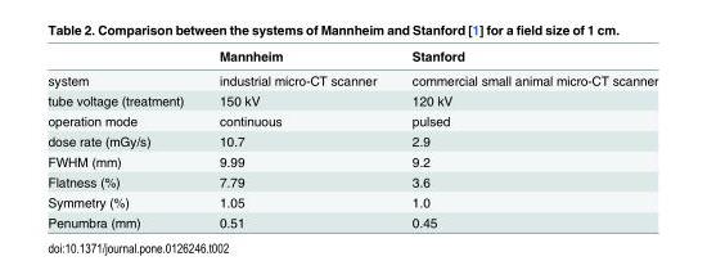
<table><thead><tr><td></td><td>Mannheim</td><td>Stanford</td></tr></thead><tbody><tr><td>system</td><td>industrial micro-CT scanner</td><td>commercial small animal micro-CT scanner</td></tr><tr><td>tube voltage (treatment)</td><td>150 kV</td><td>120 kV</td></tr><tr><td>operation mode</td><td>continuous</td><td>pulsed</td></tr><tr><td>dose rate (mGy/s)</td><td>10.7</td><td>2.9</td></tr><tr><td>FWHM (mm)</td><td>9.99</td><td>9.2</td></tr><tr><td>Flatness (%)</td><td>7.79</td><td>3.6</td></tr><tr><td>Symmetry (%)</td><td>1.05</td><td>1.0</td></tr><tr><td>Penumbra (mm)</td><td>0.51</td><td>0.45</td></tr></tbody></table>